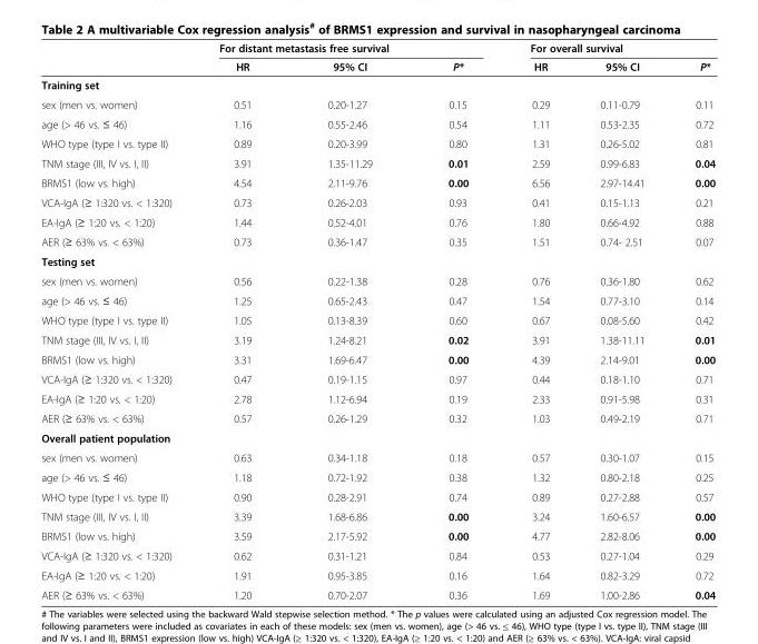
<table><thead><tr><td rowspan="2"></td><td colspan="3">For distant metastasis free survival</td><td colspan="3">For overall survival</td></tr><tr><td>HR</td><td>95% CI</td><td>P*</td><td>HR</td><td>95% CI</td><td>P*</td></tr></thead><tbody><tr><td colspan="7">Training set</td></tr><tr><td>sex (men vs. women)</td><td>0.51</td><td>0.20-1.27</td><td>0.15</td><td>0.29</td><td>0.11-0.79</td><td>0.11</td></tr><tr><td>age (&gt; 46 vs. ≤ 46)</td><td>1.16</td><td>0.55-2.46</td><td>0.54</td><td>1.11</td><td>0.53-2.35</td><td>0.72</td></tr><tr><td>WHO type (type I vs. type II)</td><td>0.89</td><td>0.20-3.99</td><td>0.80</td><td>1.31</td><td>0.26-5.02</td><td>0.81</td></tr><tr><td>TNM stage (III, IV vs. I, II)</td><td>3.91</td><td>1.35-11.29</td><td>0.01</td><td>2.59</td><td>0.99-6.83</td><td>0.04</td></tr><tr><td>BRMS1 (low vs. high)</td><td>4.54</td><td>2.11-9.76</td><td>0.00</td><td>6.56</td><td>2.97-14.41</td><td>0.00</td></tr><tr><td>VCA-IgA (≥ 1:320 vs. &lt; 1:320)</td><td>0.73</td><td>0.26-2.03</td><td>0.93</td><td>0.41</td><td>0.15-1.13</td><td>0.21</td></tr><tr><td>EA-IgA (≥ 1:20 vs. &lt; 1:20)</td><td>1.44</td><td>0.52-4.01</td><td>0.76</td><td>1.80</td><td>0.66-4.92</td><td>0.88</td></tr><tr><td>AER (≥ 63% vs. &lt; 63%)</td><td>0.73</td><td>0.36-1.47</td><td>0.35</td><td>1.51</td><td>0.74- 2.51</td><td>0.07</td></tr><tr><td colspan="7">Testing set</td></tr><tr><td>sex (men vs. women)</td><td>0.56</td><td>0.22-1.38</td><td>0.28</td><td>0.76</td><td>0.36-1.80</td><td>0.62</td></tr><tr><td>age (&gt; 46 vs. ≤ 46)</td><td>1.25</td><td>0.65-2.43</td><td>0.47</td><td>1.54</td><td>0.77-3.10</td><td>0.14</td></tr><tr><td>WHO type (type I vs. type II)</td><td>1.05</td><td>0.13-8.39</td><td>0.60</td><td>0.67</td><td>0.08-5.60</td><td>0.42</td></tr><tr><td>TNM stage (III, IV vs. I, II)</td><td>3.19</td><td>1.24-8.21</td><td>0.02</td><td>3.91</td><td>1.38-11.11</td><td>0.01</td></tr><tr><td>BRMS1 (low vs. high)</td><td>3.31</td><td>1.69-6.47</td><td>0.00</td><td>4.39</td><td>2.14-9.01</td><td>0.00</td></tr><tr><td>VCA-IgA (≥ 1:320 vs. &lt; 1:320)</td><td>0.47</td><td>0.19-1.15</td><td>0.97</td><td>0.44</td><td>0.18-1.10</td><td>0.71</td></tr><tr><td>EA-IgA (≥ 1:20 vs. &lt; 1:20)</td><td>2.78</td><td>1.12-6.94</td><td>0.19</td><td>2.33</td><td>0.91-5.98</td><td>0.31</td></tr><tr><td>AER (≥ 63% vs. &lt; 63%)</td><td>0.57</td><td>0.26-1.29</td><td>0.32</td><td>1.03</td><td>0.49-2.19</td><td>0.71</td></tr><tr><td colspan="7">Overall patient population</td></tr><tr><td>sex (men vs. women)</td><td>0.63</td><td>0.34-1.18</td><td>0.18</td><td>0.57</td><td>0.30-1.07</td><td>0.15</td></tr><tr><td>age (&gt; 46 vs. ≤ 46)</td><td>1.18</td><td>0.72-1.92</td><td>0.38</td><td>1.32</td><td>0.80-2.18</td><td>0.25</td></tr><tr><td>WHO type (type I vs. type II)</td><td>0.90</td><td>0.28-2.91</td><td>0.74</td><td>0.89</td><td>0.27-2.88</td><td>0.57</td></tr><tr><td>TNM stage (III, IV vs. I, II)</td><td>3.39</td><td>1.68-6.86</td><td>0.00</td><td>3.24</td><td>1.60-6.57</td><td>0.00</td></tr><tr><td>BRMS1 (low vs. high)</td><td>3.59</td><td>2.17-5.92</td><td>0.00</td><td>4.77</td><td>2.82-8.06</td><td>0.00</td></tr><tr><td>VCA-IgA (≥ 1:320 vs. &lt; 1:320)</td><td>0.62</td><td>0.31-1.21</td><td>0.84</td><td>0.53</td><td>0.27-1.04</td><td>0.29</td></tr><tr><td>EA-IgA (≥ 1:20 vs. &lt; 1:20)</td><td>1.91</td><td>0.95-3.85</td><td>0.16</td><td>1.64</td><td>0.82-3.29</td><td>0.72</td></tr><tr><td>AER (≥ 63% vs. &lt; 63%)</td><td>1.20</td><td>0.70-2.07</td><td>0.36</td><td>1.69</td><td>1.00-2.86</td><td>0.04</td></tr></tbody></table>